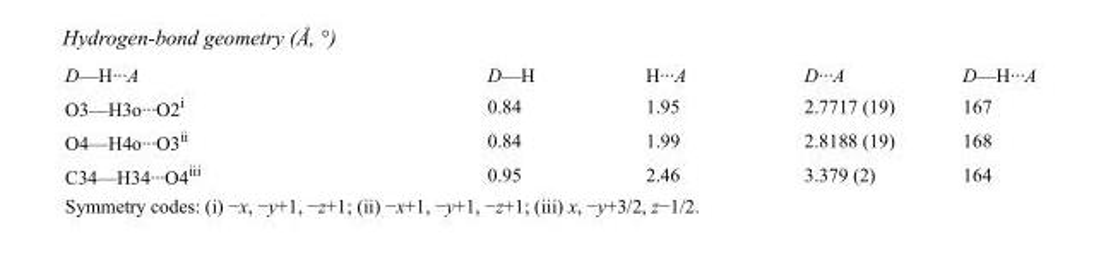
<table><tbody><tr><td>D—H···A</td><td>D—H</td><td>H···A</td><td>D···A</td><td>D—H···A</td></tr><tr><td>O3—H3o···O2<sup>i</sup></td><td>0.84</td><td>1.95</td><td>2.7717 (19)</td><td>167</td></tr><tr><td>O4—H4o···O3<sup>ii</sup></td><td>0.84</td><td>1.99</td><td>2.8188 (19)</td><td>168</td></tr><tr><td>C34—H34···O4<sup>iii</sup></td><td>0.95</td><td>2.46</td><td>3.379 (2)</td><td>164</td></tr></tbody></table>